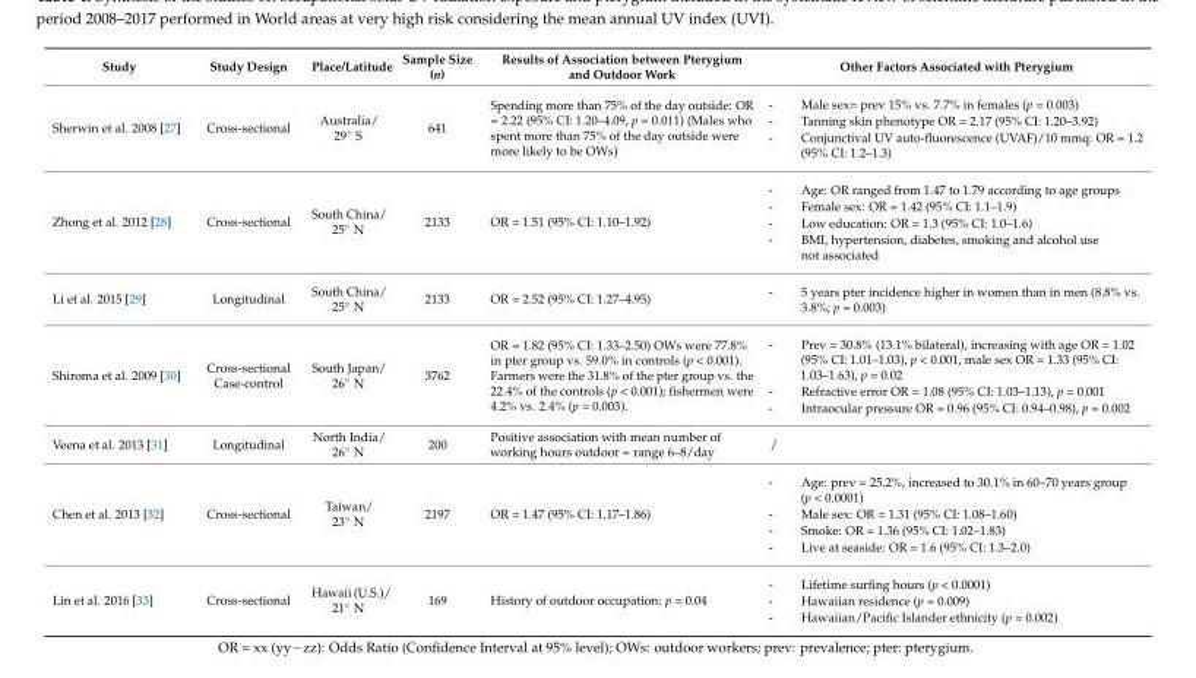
<table><thead><tr><td>Study</td><td>Study Design</td><td>Place/Latitude</td><td>Sample Size (n)</td><td>Results of Association between Pterygium and Outdoor Work</td><td>Other Factors Associated with Pterygium</td></tr></thead><tbody><tr><td>Sherwin et al. 2008 [27]</td><td>Cross-sectional</td><td>Australia/ 29◦ S</td><td>641</td><td>Spending more than 75% of the day outside: OR = 2.22 (95% CI: 1.20–4.09, p = 0.011) (Males who spent more than 75% of the day outside were more likely to be OWs)</td><td>- Male sex= prev 15% vs. 7.7% in females (p = 0.003) - Tanning skin phenotype OR = 2.17 (95% CI: 1.20–3.92) - Conjunctival UV auto-fluorescence (UVAF)/10 mmq: OR = 1.2 (95% CI: 1.2–1.3)</td></tr><tr><td>Zhong et al. 2012 [28]</td><td>Cross-sectional</td><td>South China/ 25◦ N</td><td>2133</td><td>OR = 1.51 (95% CI: 1.10–1.92)</td><td>- Age: OR ranged from 1.47 to 1.79 according to age groups - Female sex: OR = 1.42 (95% CI: 1.1–1.9) - Low education: OR = 1.3 (95% CI: 1.0–1.6) - BMI, hypertension, diabetes, smoking and alcohol use not associated</td></tr><tr><td>Li et al. 2015 [29]</td><td>Longitudinal</td><td>South China/ 25◦ N</td><td>2133</td><td>OR = 2.52 (95% CI: 1.27–4.95)</td><td>- 5 years pter incidence higher in women than in men (8.8% vs. 3.8%; p = 0.003)</td></tr><tr><td>Shiroma et al. 2009 [30]</td><td>Cross-sectional Case-control</td><td>South Japan/ 26◦ N</td><td>3762</td><td>OR = 1.82 (95% CI: 1.33–2.50) OWs were 77.8% in pter group vs. 59.0% in controls (p &lt; 0.001). Farmers were the 31.8% of the pter group vs. the 22.4% of the controls (p &lt; 0.001); fishermen were 4.2% vs. 2.4% (p = 0.003).</td><td>- Prev = 30.8% (13.1% bilateral), increasing with age OR = 1.02 (95% CI: 1.01–1.03), p &lt; 0.001, male sex OR = 1.33 (95% CI: 1.03–1.63), p = 0.02 - Refractive error OR = 1.08 (95% CI: 1.03–1.13), p = 0.001 - Intraocular pressure OR = 0.96 (95% CI: 0.94–0.98), p = 0.002</td></tr><tr><td>Veena et al. 2013 [31]</td><td>Longitudinal</td><td>North India/ 26◦ N</td><td>200</td><td>Positive association with mean number of working hours outdoor = range 6–8/day</td><td>/</td></tr><tr><td>Chen et al. 2013 [32]</td><td>Cross-sectional</td><td>Taiwan/ 23◦ N</td><td>2197</td><td>OR = 1.47 (95% CI: 1.17–1.86)</td><td>- Age: prev = 25.2%, increased to 30.1% in 60–70 years group (p &lt; 0.0001) - Male sex: OR = 1.31 (95% CI: 1.08–1.60) - Smoke: OR = 1.36 (95% CI: 1.02–1.83) - Live at seaside: OR = 1.6 (95% CI: 1.3–2.0)</td></tr><tr><td>Lin et al. 2016 [33]</td><td>Cross-sectional</td><td>Hawaii (U.S.)/ 21◦ N</td><td>169</td><td>History of outdoor occupation: p = 0.04</td><td>- Lifetime surfing hours (p &lt; 0.0001) - Hawaiian residence (p = 0.009) - Hawaiian/Pacific Islander ethnicity (p = 0.002)</td></tr></tbody></table>